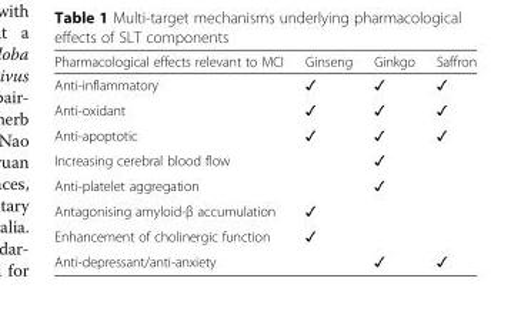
<table><thead><tr><td>Pharmacological effects relevant to MCI</td><td>Ginseng</td><td>Ginkgo</td><td>Saffron</td></tr></thead><tbody><tr><td>Anti-inflammatory</td><td>✓</td><td>✓</td><td>✓</td></tr><tr><td>Anti-oxidant</td><td>✓</td><td>✓</td><td>✓</td></tr><tr><td>Anti-apoptotic</td><td>✓</td><td>✓</td><td>✓</td></tr><tr><td>Increasing cerebral blood flow</td><td></td><td>✓</td><td></td></tr><tr><td>Anti-platelet aggregation</td><td></td><td>✓</td><td></td></tr><tr><td>Antagonising amyloid-β accumulation</td><td>✓</td><td></td><td></td></tr><tr><td>Enhancement of cholinergic function</td><td>✓</td><td></td><td></td></tr><tr><td>Anti-depressant/anti-anxiety</td><td></td><td>✓</td><td>✓</td></tr></tbody></table>